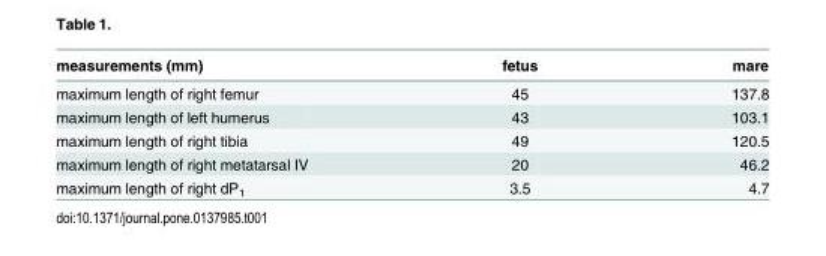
<table><thead><tr><td>measurements (mm)</td><td>fetus</td><td>mare</td></tr></thead><tbody><tr><td>maximum length of right femur</td><td>45</td><td>137.8</td></tr><tr><td>maximum length of left humerus</td><td>43</td><td>103.1</td></tr><tr><td>maximum length of right tibia</td><td>49</td><td>120.5</td></tr><tr><td>maximum length of right metatarsal IV</td><td>20</td><td>46.2</td></tr><tr><td>maximum length of right dP<sub>1</sub></td><td>3.5</td><td>4.7</td></tr></tbody></table>